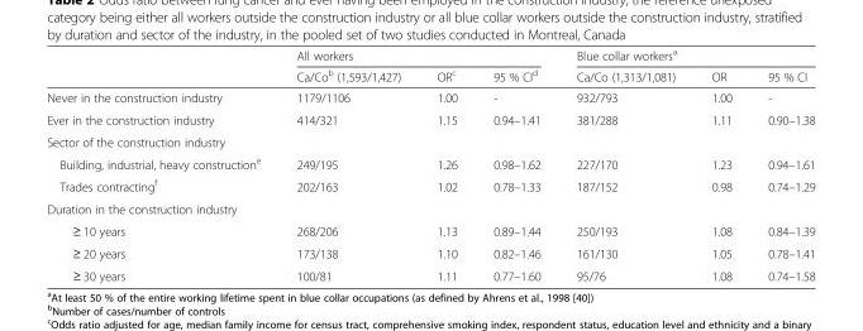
<table><thead><tr><td rowspan="2"></td><td colspan="3">All workers</td><td colspan="3">Blue collar workers<sup>a</sup></td></tr><tr><td>Ca/Co<sup>b</sup> (1,593/1,427)</td><td>OR<sup>c</sup></td><td>95 % CI<sup>d</sup></td><td>Ca/Co (1,313/1,081)</td><td>OR</td><td>95 % CI</td></tr></thead><tbody><tr><td>Never in the construction industry</td><td>1179/1106</td><td>1.00</td><td>-</td><td>932/793</td><td>1.00</td><td>-</td></tr><tr><td>Ever in the construction industry</td><td>414/321</td><td>1.15</td><td>0.94–1.41</td><td>381/288</td><td>1.11</td><td>0.90–1.38</td></tr><tr><td colspan="7">Sector of the construction industry</td></tr><tr><td>Building, industrial, heavy construction<sup>e</sup></td><td>249/195</td><td>1.26</td><td>0.98–1.62</td><td>227/170</td><td>1.23</td><td>0.94–1.61</td></tr><tr><td>Trades contracting<sup>f</sup></td><td>202/163</td><td>1.02</td><td>0.78–1.33</td><td>187/152</td><td>0.98</td><td>0.74–1.29</td></tr><tr><td colspan="7">Duration in the construction industry</td></tr><tr><td>≥ 10 years</td><td>268/206</td><td>1.13</td><td>0.89–1.44</td><td>250/193</td><td>1.08</td><td>0.84–1.39</td></tr><tr><td>≥ 20 years</td><td>173/138</td><td>1.10</td><td>0.82–1.46</td><td>161/130</td><td>1.05</td><td>0.78–1.41</td></tr><tr><td>≥ 30 years</td><td>100/81</td><td>1.11</td><td>0.77–1.60</td><td>95/76</td><td>1.08</td><td>0.74–1.58</td></tr></tbody></table>